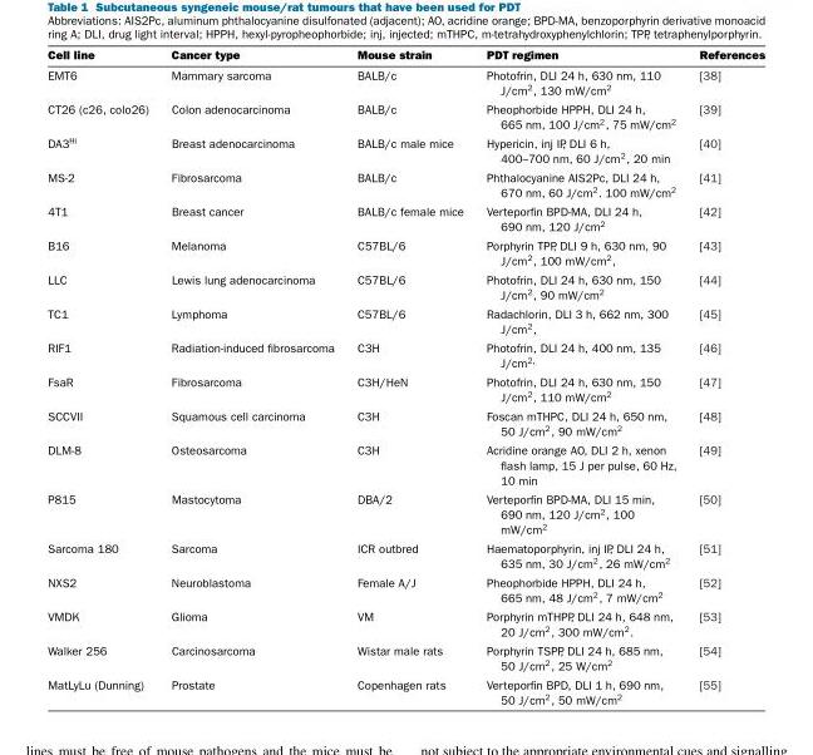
<table><thead><tr><td>Cell line</td><td>Cancer type</td><td>Mouse strain</td><td>PDT regimen</td><td>References</td></tr></thead><tbody><tr><td>EMT6</td><td>Mammary sarcoma</td><td>BALB/c</td><td>Photofrin, DLI 24 h, 630 nm, 110 J/cm2, 130 mW/cm2</td><td>[38]</td></tr><tr><td>CT26 (c26, colo26)</td><td>Colon adenocarcinoma</td><td>BALB/c</td><td>Pheophorbide HPPH, DLI 24 h, 665 nm, 100 J/cm2, 75 mW/cm2</td><td>[39]</td></tr><tr><td>DA3Hi</td><td>Breast adenocarcinoma</td><td>BALB/c male mice</td><td>Hypericin, inj IP, DLI 6 h, 400–700 nm, 60 J/cm2, 20 min</td><td>[40]</td></tr><tr><td>MS-2</td><td>Fibrosarcoma</td><td>BALB/c</td><td>Phthalocyanine AIS2Pc, DLI 24 h, 670 nm, 60 J/cm2. 100 mW/cm2</td><td>[41]</td></tr><tr><td>4T1</td><td>Breast cancer</td><td>BALB/c female mice</td><td>Verteporfin BPD-MA, DLI 24 h, 690 nm, 120 J/cm2</td><td>[42]</td></tr><tr><td>B16</td><td>Melanoma</td><td>C57BL/6</td><td>Porphyrin TPP, DLI 9 h, 630 nm, 90 J/cm2, 100 mW/cm2,</td><td>[43]</td></tr><tr><td>LLC</td><td>Lewis lung adenocarcinoma</td><td>C57BL/6</td><td>Photofrin, DLI 24 h, 630 nm, 150 J/cm2, 90 mW/cm2</td><td>[44]</td></tr><tr><td>TC1</td><td>Lymphoma</td><td>C57BL/6</td><td>Radachlorin, DLI 3 h, 662 nm, 300 J/cm2,</td><td>[45]</td></tr><tr><td>RIF1</td><td>Radiation-induced fibrosarcoma</td><td>C3H</td><td>Photofrin, DLI 24 h, 400 nm, 135 J/cm2,</td><td>[46]</td></tr><tr><td>FsaR</td><td>Fibrosarcoma</td><td>C3H/HeN</td><td>Photofrin, DLI 24 h, 630 nm, 150 J/cm2, 110 mW/cm2</td><td>[47]</td></tr><tr><td>SCCVII</td><td>Squamous cell carcinoma</td><td>C3H</td><td>Foscan mTHPC, DLI 24 h, 650 nm, 50 J/cm2, 90 mW/cm2</td><td>[48]</td></tr><tr><td>DLM-8</td><td>Osteosarcoma</td><td>C3H</td><td>Acridine orange AO, DLI 2 h, xenon flash lamp, 15 J per pulse, 60 Hz, 10 min</td><td>[49]</td></tr><tr><td>P815</td><td>Mastocytoma</td><td>DBA/2</td><td>Verteporfin BPD-MA, DLI 15 min, 690 nm, 120 J/cm2, 100 mW/cm2</td><td>[50]</td></tr><tr><td>Sarcoma 180</td><td>Sarcoma</td><td>ICR outbred</td><td>Haematoporphyrin, inj IP, DLI 24 h, 635 nm, 30 J/cm2, 26 mW/cm2</td><td>[51]</td></tr><tr><td>NXS2</td><td>Neuroblastoma</td><td>Female A/J</td><td>Pheophorbide HPPH, DLI 24 h, 665 nm, 48 J/cm2, 7 mW/cm2</td><td>[52]</td></tr><tr><td>VMDK</td><td>Glioma</td><td>VM</td><td>Porphyrin mTHPP, DLI 24 h, 648 nm, 20 J/cm2, 300 mW/cm2.</td><td>[53]</td></tr><tr><td>Walker 256</td><td>Carcinosarcoma</td><td>Wistar male rats</td><td>Porphyrin TSPP, DLI 24 h, 685 nm, 50 J/cm2, 25 W/cm2</td><td>[54]</td></tr><tr><td>MatLyLu (Dunning)</td><td>Prostate</td><td>Copenhagen rats</td><td>Verteporfin BPD, DLI 1 h, 690 nm, 50 J/cm2, 50 mW/cm2</td><td>[55]</td></tr></tbody></table>